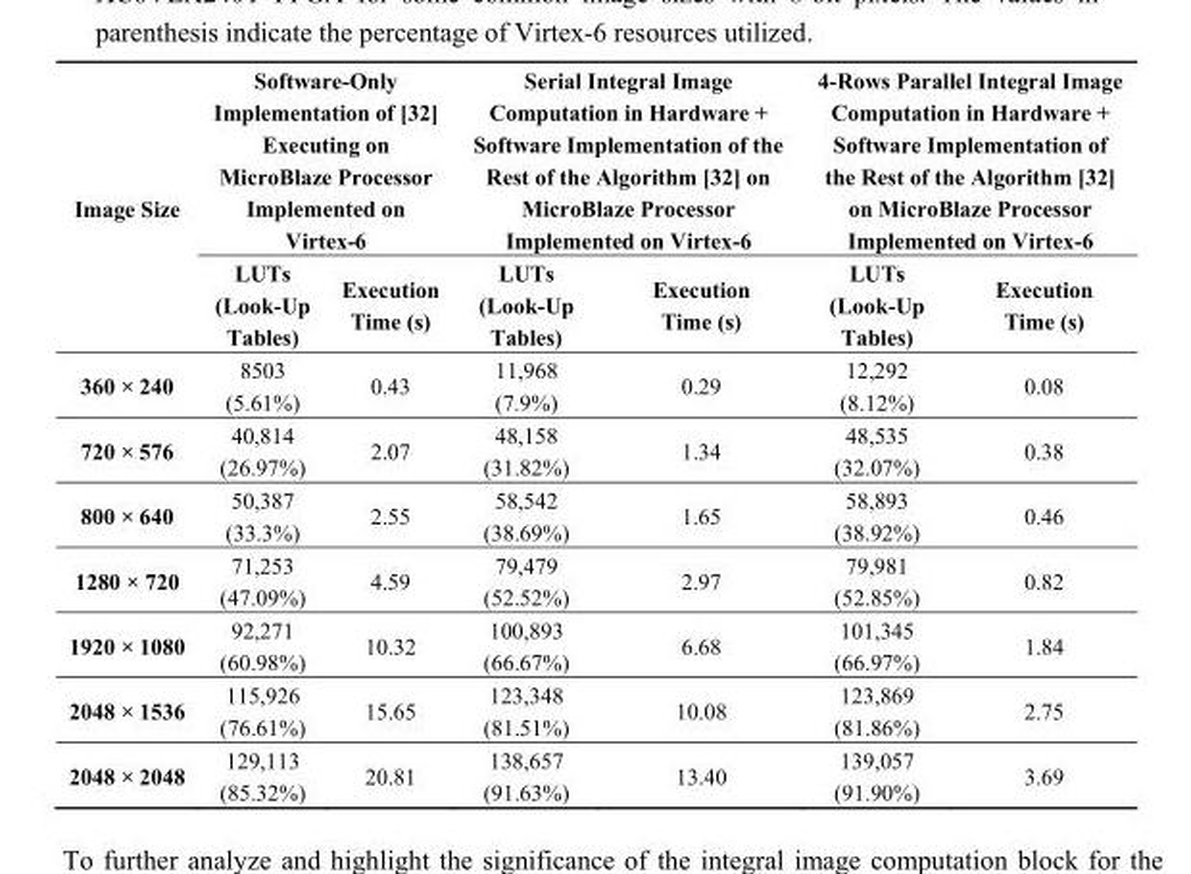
<table><thead><tr><td rowspan="2">Image Size</td><td colspan="2">Software-Only Implementation of [32] Executing on MicroBlaze Processor Implemented on Virtex-6</td><td colspan="2">Serial Integral Image Computation in Hardware + Software Implementation of the Rest of the Algorithm [32] on MicroBlaze Processor Implemented on Virtex-6</td><td colspan="2">4-Rows Parallel Integral Image Computation in Hardware + Software Implementation of the Rest of the Algorithm [32] on MicroBlaze Processor Implemented on Virtex-6</td></tr><tr><td>LUTs (Look-Up Tables)</td><td>Execution Time (s)</td><td>LUTs (Look-Up Tables)</td><td>Execution Time (s)</td><td>LUTs (Look-Up Tables)</td><td>Execution Time (s)</td></tr></thead><tbody><tr><td>360 × 240</td><td>8503 (5.61%)</td><td>0.43</td><td>11,968 (7.9%)</td><td>0.29</td><td>12,292 (8.12%)</td><td>0.08</td></tr><tr><td>720 × 576</td><td>40,814 (26.97%)</td><td>2.07</td><td>48,158 (31.82%)</td><td>1.34</td><td>48,535 (32.07%)</td><td>0.38</td></tr><tr><td>800 × 640</td><td>50,387 (33.3%)</td><td>2.55</td><td>58,542 (38.69%)</td><td>1.65</td><td>58,893 (38.92%)</td><td>0.46</td></tr><tr><td>1280 × 720</td><td>71,253 (47.09%)</td><td>4.59</td><td>79,479 (52.52%)</td><td>2.97</td><td>79,981 (52.85%)</td><td>0.82</td></tr><tr><td>1920 × 1080</td><td>92,271 (60.98%)</td><td>10.32</td><td>100,893 (66.67%)</td><td>6.68</td><td>101,345 (66.97%)</td><td>1.84</td></tr><tr><td>2048 × 1536</td><td>115,926 (76.61%)</td><td>15.65</td><td>123,348 (81.51%)</td><td>10.08</td><td>123,869 (81.86%)</td><td>2.75</td></tr><tr><td>2048 × 2048</td><td>129,113 (85.32%)</td><td>20.81</td><td>138,657 (91.63%)</td><td>13.40</td><td>139,057 (91.90%)</td><td>3.69</td></tr></tbody></table>